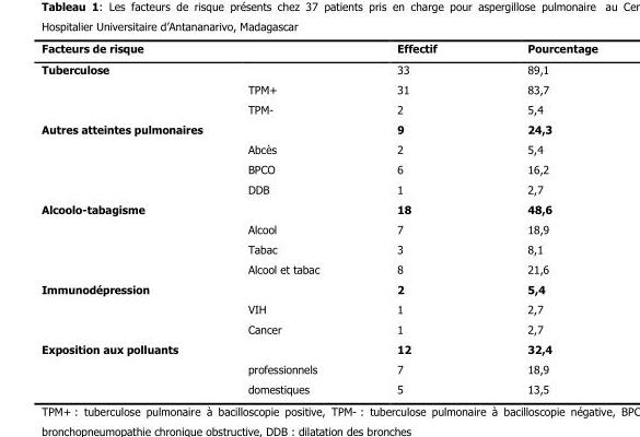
<table><thead><tr><td>Facteurs de risque</td><td></td><td>Effectif</td><td>Pourcentage</td></tr></thead><tbody><tr><td rowspan="3">Tuberculose</td><td></td><td>33</td><td>89,1</td></tr><tr><td>TPM+</td><td>31</td><td>83,7</td></tr><tr><td>TPM-</td><td>2</td><td>5,4</td></tr><tr><td rowspan="4">Autres atteintes pulmonaires</td><td></td><td>9</td><td>24,3</td></tr><tr><td>Abcès</td><td>2</td><td>5,4</td></tr><tr><td>BPCO</td><td>6</td><td>16,2</td></tr><tr><td>DDB</td><td>1</td><td>2,7</td></tr><tr><td rowspan="4">Alcoolo-tabagisme</td><td></td><td>18</td><td>48,6</td></tr><tr><td>Alcool</td><td>7</td><td>18,9</td></tr><tr><td>Tabac</td><td>3</td><td>8,1</td></tr><tr><td>Alcool et tabac</td><td>8</td><td>21,6</td></tr><tr><td rowspan="3">Immunodépression</td><td></td><td>2</td><td>5,4</td></tr><tr><td>VIH</td><td>1</td><td>2,7</td></tr><tr><td>Cancer</td><td>1</td><td>2,7</td></tr><tr><td rowspan="3">Exposition aux polluants</td><td></td><td>12</td><td>32,4</td></tr><tr><td>professionnels</td><td>7</td><td>18,9</td></tr><tr><td>domestiques</td><td>5</td><td>13,5</td></tr></tbody></table>